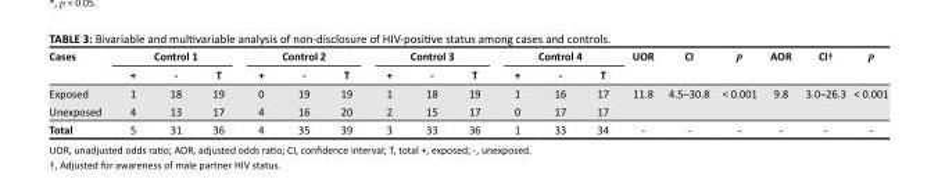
<table><thead><tr><td rowspan="2">Cases</td><td colspan="3">Control 1</td><td colspan="3">Control 2</td><td colspan="3">Control 3</td><td colspan="3">Control 4</td><td rowspan="2">UOR</td><td rowspan="2">CI</td><td rowspan="2">p</td><td rowspan="2">AOR</td><td rowspan="2">CI†</td><td rowspan="2">p</td></tr><tr><td>+</td><td>-</td><td>T</td><td>+</td><td>-</td><td>T</td><td>+</td><td>-</td><td>T</td><td>+</td><td>-</td><td>T</td></tr></thead><tbody><tr><td>Exposed</td><td>1</td><td>18</td><td>19</td><td>0</td><td>19</td><td>19</td><td>1</td><td>18</td><td>19</td><td>1</td><td>16</td><td>17</td><td rowspan="2">11.8</td><td rowspan="2">4.5–30.8</td><td rowspan="2">&lt; 0.001</td><td rowspan="2">9.8</td><td rowspan="2">3.0–26.3</td><td rowspan="2">&lt; 0.001</td></tr><tr><td>Unexposed</td><td>4</td><td>13</td><td>17</td><td>4</td><td>16</td><td>20</td><td>2</td><td>15</td><td>17</td><td>0</td><td>17</td><td>17</td></tr><tr><td>Total</td><td>5</td><td>31</td><td>36</td><td>4</td><td>35</td><td>39</td><td>3</td><td>33</td><td>36</td><td>1</td><td>33</td><td>34</td><td>-</td><td>-</td><td>-</td><td>-</td><td>-</td><td>-</td></tr></tbody></table>